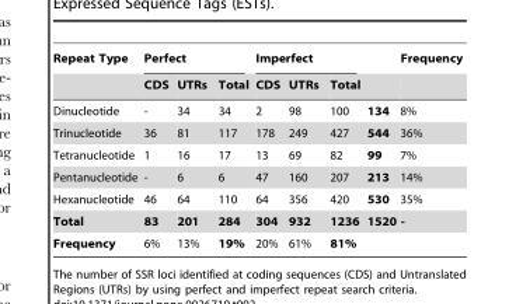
<table><thead><tr><td rowspan="2">Repeat Type</td><td colspan="3">Perfect</td><td colspan="3">Imperfect</td><td rowspan="2"></td><td rowspan="2">Frequency</td></tr><tr><td>CDS</td><td>UTRs</td><td>Total</td><td>CDS</td><td>UTRs</td><td>Total</td></tr></thead><tbody><tr><td>Dinucleotide</td><td>-</td><td>34</td><td>34</td><td>2</td><td>98</td><td>100</td><td>134</td><td>8%</td></tr><tr><td>Trinucleotide</td><td>36</td><td>81</td><td>117</td><td>178</td><td>249</td><td>427</td><td>544</td><td>36%</td></tr><tr><td>Tetranucleotide</td><td>1</td><td>16</td><td>17</td><td>13</td><td>69</td><td>82</td><td>99</td><td>7%</td></tr><tr><td>Pentanucleotide</td><td>-</td><td>6</td><td>6</td><td>47</td><td>160</td><td>207</td><td>213</td><td>14%</td></tr><tr><td>Hexanucleotide</td><td>46</td><td>64</td><td>110</td><td>64</td><td>356</td><td>420</td><td>530</td><td>35%</td></tr><tr><td>Total</td><td>83</td><td>201</td><td>284</td><td>304</td><td>932</td><td>1236</td><td>1520</td><td>-</td></tr><tr><td>Frequency</td><td>6%</td><td>13%</td><td>19%</td><td>20%</td><td>61%</td><td>81%</td><td></td><td></td></tr></tbody></table>